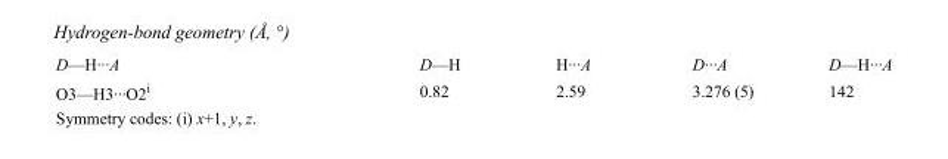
<table><tbody><tr><td>D—H···A</td><td>D—H</td><td>H···A</td><td>D···A</td><td>D—H···A</td></tr><tr><td>O3—H3···O2<sup>i</sup></td><td>0.82</td><td>2.59</td><td>3.276 (5)</td><td>142</td></tr></tbody></table>